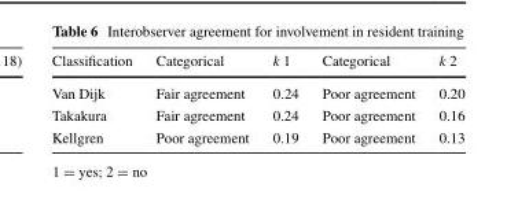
<table><thead><tr><td>Classification</td><td>Categorical</td><td>k 1</td><td>Categorical</td><td>k 2</td></tr></thead><tbody><tr><td>Van Dijk</td><td>Fair agreement</td><td>0.24</td><td>Poor agreement</td><td>0.20</td></tr><tr><td>Takakura</td><td>Fair agreement</td><td>0.24</td><td>Poor agreement</td><td>0.16</td></tr><tr><td>Kellgren</td><td>Poor agreement</td><td>0.19</td><td>Poor agreement</td><td>0.13</td></tr></tbody></table>